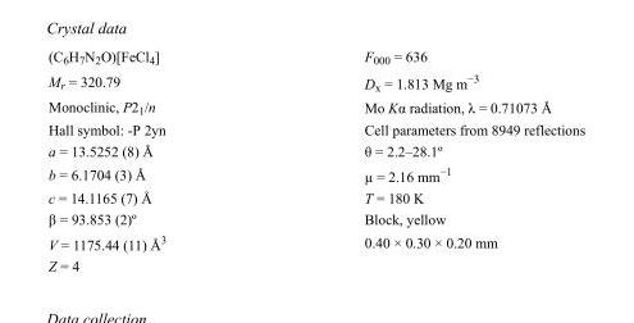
<table><tbody><tr><td>(C<sub>6</sub>H<sub>7</sub>N<sub>2</sub>O)[FeCl<sub>4</sub>]</td><td>F000 = 636</td></tr><tr><td>M<sub>r</sub> = 320.79</td><td>D<sub>x</sub> = 1.813 Mg m<sup>−3</sup></td></tr><tr><td>Monoclinic, P2<sub>1</sub>/n</td><td>Mo Kα radiation, λ = 0.71073 Å</td></tr><tr><td>Hall symbol: -P 2yn</td><td>Cell parameters from 8949 reflections</td></tr><tr><td>a = 13.5252 (8) Å</td><td>θ = 2.2–28.1º</td></tr><tr><td>b = 6.1704 (3) Å</td><td>µ = 2.16 mm<sup>−1</sup></td></tr><tr><td>c = 14.1165 (7) Å</td><td>T = 180 K</td></tr><tr><td>β = 93.853 (2)º</td><td>Block, yellow</td></tr><tr><td>V = 1175.44 (11) Å<sup>3</sup></td><td>0.40 × 0.30 × 0.20 mm</td></tr><tr><td>Z = 4</td><td></td></tr></tbody></table>